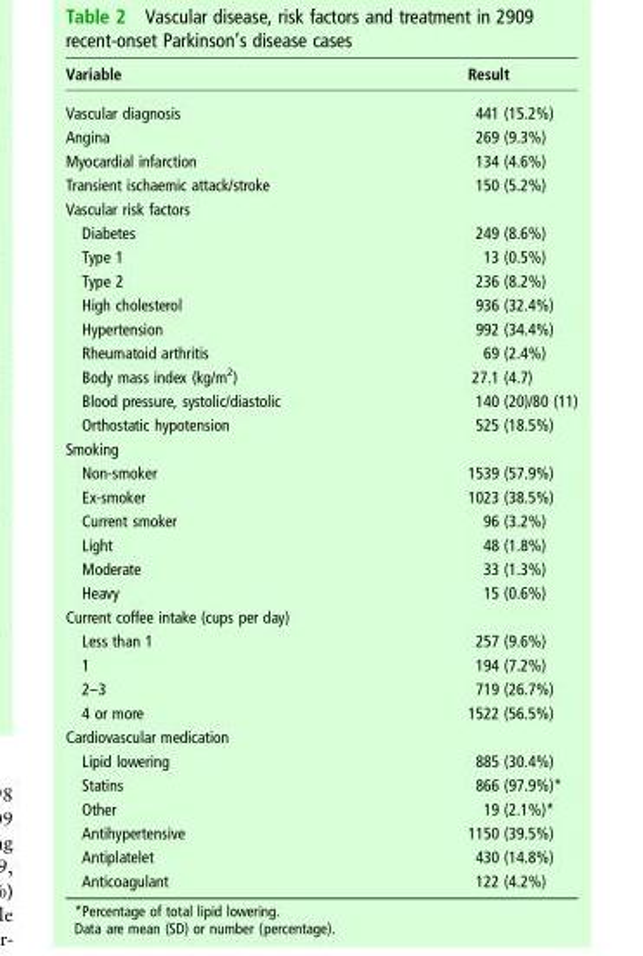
<table><thead><tr><td>Variable</td><td>Result</td></tr></thead><tbody><tr><td>Vascular diagnosis</td><td>441 (15.2%)</td></tr><tr><td>Angina</td><td>269 (9.3%)</td></tr><tr><td>Myocardial infarction</td><td>134 (4.6%)</td></tr><tr><td>Transient ischaemic attack/stroke</td><td>150 (5.2%)</td></tr><tr><td colspan="2">Vascular risk factors</td></tr><tr><td>Diabetes</td><td>249 (8.6%)</td></tr><tr><td>Type 1</td><td>13 (0.5%)</td></tr><tr><td>Type 2</td><td>236 (8.2%)</td></tr><tr><td>High cholesterol</td><td>936 (32.4%)</td></tr><tr><td>Hypertension</td><td>992 (34.4%)</td></tr><tr><td>Rheumatoid arthritis</td><td>69 (2.4%)</td></tr><tr><td>Body mass index (kg/m<sup>2</sup>)</td><td>27.1 (4.7)</td></tr><tr><td>Blood pressure, systolic/diastolic</td><td>140 (20)/80 (11)</td></tr><tr><td>Orthostatic hypotension</td><td>525 (18.5%)</td></tr><tr><td colspan="2">Smoking</td></tr><tr><td>Non-smoker</td><td>1539 (57.9%)</td></tr><tr><td>Ex-smoker</td><td>1023 (38.5%)</td></tr><tr><td>Current smoker</td><td>96 (3.2%)</td></tr><tr><td>Light</td><td>48 (1.8%)</td></tr><tr><td>Moderate</td><td>33 (1.3%)</td></tr><tr><td>Heavy</td><td>15 (0.6%)</td></tr><tr><td colspan="2">Current coffee intake (cups per day)</td></tr><tr><td>Less than 1</td><td>257 (9.6%)</td></tr><tr><td>1</td><td>194 (7.2%)</td></tr><tr><td>2–3</td><td>719 (26.7%)</td></tr><tr><td>4 or more</td><td>1522 (56.5%)</td></tr><tr><td colspan="2">Cardiovascular medication</td></tr><tr><td>Lipid lowering</td><td>885 (30.4%)</td></tr><tr><td>Statins</td><td>866 (97.9%)*</td></tr><tr><td>Other</td><td>19 (2.1%)*</td></tr><tr><td>Antihypertensive</td><td>1150 (39.5%)</td></tr><tr><td>Antiplatelet</td><td>430 (14.8%)</td></tr><tr><td>Anticoagulant</td><td>122 (4.2%)</td></tr></tbody></table>